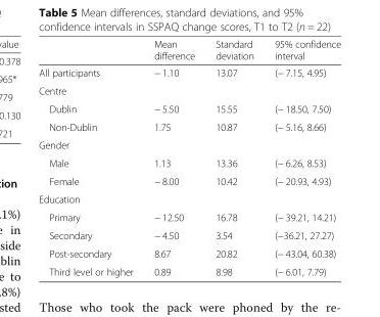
<table><thead><tr><td></td><td>Mean difference</td><td>Standard deviation</td><td>95% confidence interval</td></tr></thead><tbody><tr><td>All participants</td><td>− 1.10</td><td>13.07</td><td>(− 7.15, 4.95)</td></tr><tr><td colspan="4">Centre</td></tr><tr><td>Dublin</td><td>− 5.50</td><td>15.55</td><td>(− 18.50, 7.50)</td></tr><tr><td>Non-Dublin</td><td>1.75</td><td>10.87</td><td>(− 5.16, 8.66)</td></tr><tr><td colspan="4">Gender</td></tr><tr><td>Male</td><td>1.13</td><td>13.36</td><td>(− 6.26, 8.53)</td></tr><tr><td>Female</td><td>− 8.00</td><td>10.42</td><td>(− 20.93, 4.93)</td></tr><tr><td colspan="4">Education</td></tr><tr><td>Primary</td><td>− 12.50</td><td>16.78</td><td>(− 39.21, 14.21)</td></tr><tr><td>Secondary</td><td>− 4.50</td><td>3.54</td><td>(−36.21, 27.27)</td></tr><tr><td>Post-secondary</td><td>8.67</td><td>20.82</td><td>(− 43.04, 60.38)</td></tr><tr><td>Third level or higher</td><td>0.89</td><td>8.98</td><td>(− 6.01, 7.79)</td></tr></tbody></table>